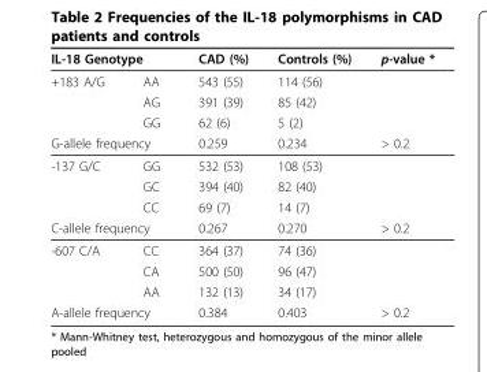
<table><thead><tr><td colspan="2">IL-18 Genotype</td><td rowspan="2">CAD (%) 543 (55)</td><td rowspan="2">Controls (%) 114 (56)</td><td rowspan="2">p-value *</td></tr><tr><td>+183 A/G</td><td>AA</td></tr></thead><tbody><tr><td></td><td>AG</td><td>391 (39)</td><td>85 (42)</td><td></td></tr><tr><td></td><td>GG</td><td>62 (6)</td><td>5 (2)</td><td></td></tr><tr><td colspan="2">G-allele frequency</td><td>0.259</td><td>0.234</td><td>&gt; 0.2</td></tr><tr><td rowspan="3">-137 G/C</td><td>GG</td><td>532 (53)</td><td>108 (53)</td><td></td></tr><tr><td>GC</td><td>394 (40)</td><td>82 (40)</td><td></td></tr><tr><td>CC</td><td>69 (7)</td><td>14 (7)</td><td></td></tr><tr><td colspan="2">C-allele frequency</td><td>0.267</td><td>0.270</td><td>&gt; 0.2</td></tr><tr><td rowspan="3">-607 C/A</td><td>CC</td><td>364 (37)</td><td>74 (36)</td><td></td></tr><tr><td>CA</td><td>500 (50)</td><td>96 (47)</td><td></td></tr><tr><td>AA</td><td>132 (13)</td><td>34 (17)</td><td></td></tr><tr><td colspan="2">A-allele frequency</td><td>0.384</td><td>0.403</td><td>&gt; 0.2</td></tr></tbody></table>